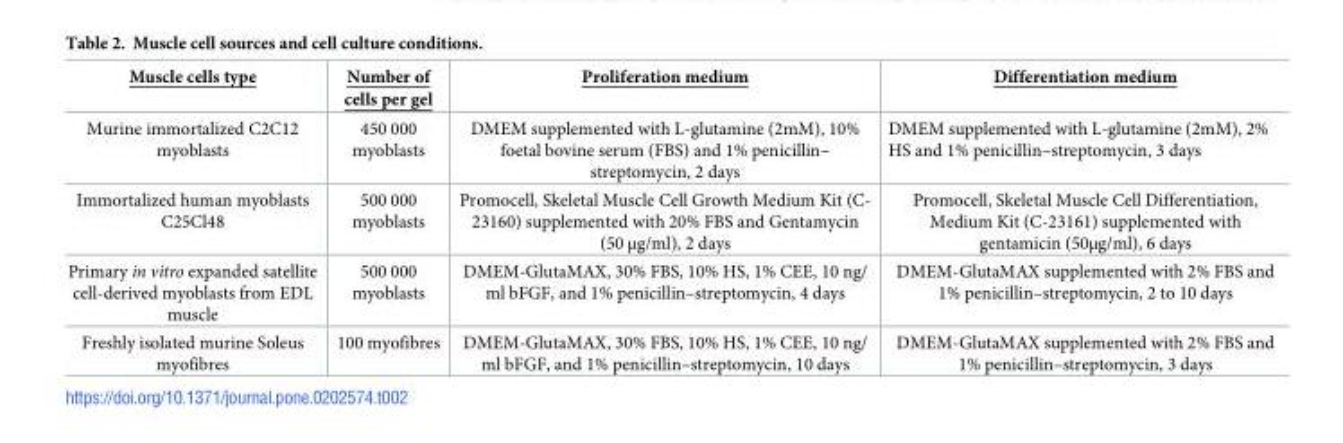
<table><thead><tr><td>Muscle cells type</td><td>Number of cells per gel</td><td>Proliferation medium</td><td>Differentiation medium</td></tr></thead><tbody><tr><td>Murine immortalized C2C12 myoblasts</td><td>450 000 myoblasts</td><td>DMEM supplemented with L-glutamine (2mM), 10% foetal bovine serum (FBS) and 1% penicillin– streptomycin, 2 days</td><td>DMEM supplemented with L-glutamine (2mM), 2% HS and 1% penicillin–streptomycin, 3 days</td></tr><tr><td>Immortalized human myoblasts C25Cl48</td><td>500 000 myoblasts</td><td>Promocell, Skeletal Muscle Cell Growth Medium Kit (C- 23160) supplemented with 20% FBS and Gentamycin (50 μg/ml), 2 days</td><td>Promocell, Skeletal Muscle Cell Differentiation, Medium Kit (C-23161) supplemented with gentamicin (50μg/ml), 6 days</td></tr><tr><td>Primary in vitro expanded satellite cell-derived myoblasts from EDL muscle</td><td>500 000 myoblasts</td><td>DMEM-GlutaMAX, 30% FBS, 10% HS, 1% CEE, 10 ng/ ml bFGF, and 1% penicillin–streptomycin, 4 days</td><td>DMEM-GlutaMAX supplemented with 2% FBS and 1% penicillin–streptomycin, 2 to 10 days</td></tr><tr><td>Freshly isolated murine Soleus myofibres</td><td>100 myofibres</td><td>DMEM-GlutaMAX, 30% FBS, 10% HS, 1% CEE, 10 ng/ ml bFGF, and 1% penicillin–streptomycin, 10 days</td><td>DMEM-GlutaMAX supplemented with 2% FBS and 1% penicillin–streptomycin, 3 days</td></tr></tbody></table>